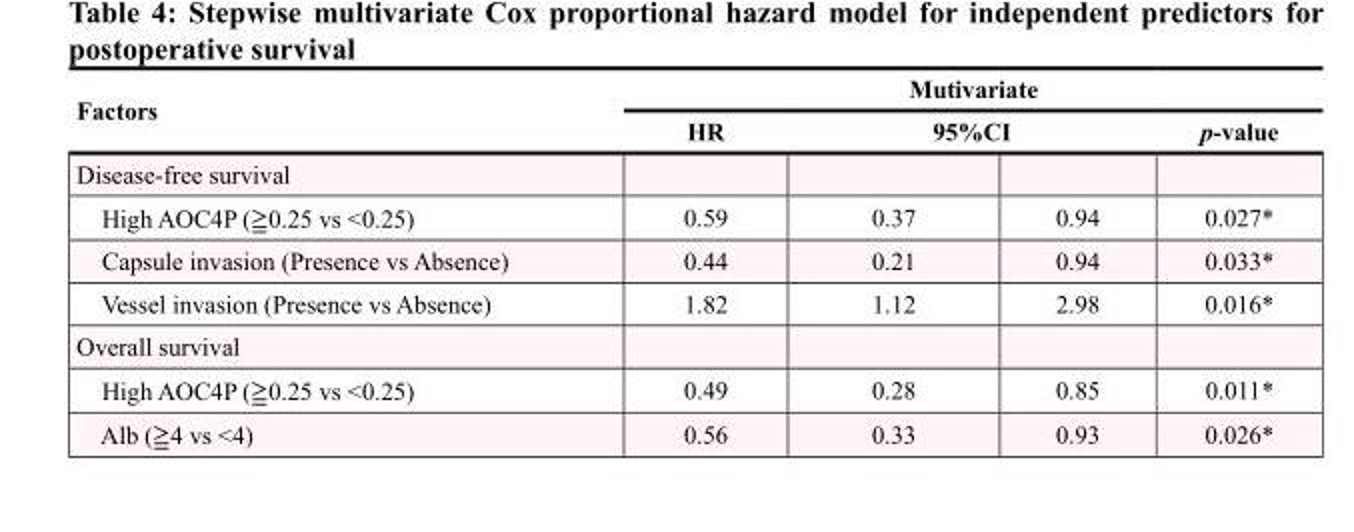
<table><thead><tr><td rowspan="3">Factors Disease-free survival</td><td colspan="4">Mutivariate</td></tr><tr><td rowspan="2">HR</td><td colspan="2">95%CI</td><td rowspan="2">p-value</td></tr><tr><td></td><td></td></tr></thead><tbody><tr><td>High AOC4P (≧0.25 vs &lt;0.25)</td><td>0.59</td><td>0.37</td><td>0.94</td><td>0.027*</td></tr><tr><td>Capsule invasion (Presence vs Absence)</td><td>0.44</td><td>0.21</td><td>0.94</td><td>0.033*</td></tr><tr><td>Vessel invasion (Presence vs Absence)</td><td>1.82</td><td>1.12</td><td>2.98</td><td>0.016*</td></tr><tr><td colspan="5">Overall survival</td></tr><tr><td>High AOC4P (≧0.25 vs &lt;0.25)</td><td>0.49</td><td>0.28</td><td>0.85</td><td>0.011*</td></tr><tr><td>Alb (≧4 vs &lt;4)</td><td>0.56</td><td>0.33</td><td>0.93</td><td>0.026*</td></tr></tbody></table>